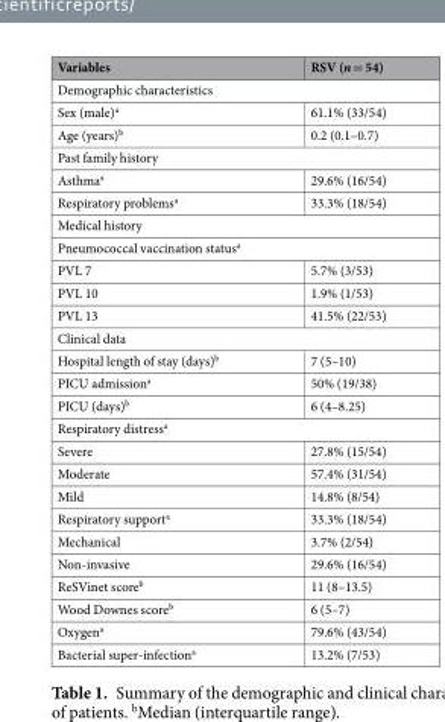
<table><thead><tr><td>Variables</td><td>RSV (n = 54)</td></tr></thead><tbody><tr><td colspan="2">Demographic characteristics</td></tr><tr><td>Sex (male)<sup>a</sup></td><td>61.1% (33/54)</td></tr><tr><td>Age (years)<sup>b</sup></td><td>0.2 (0.1–0.7)</td></tr><tr><td colspan="2">Past family history</td></tr><tr><td>Asthma<sup>a</sup></td><td>29.6% (16/54)</td></tr><tr><td>Respiratory problems<sup>a</sup></td><td>33.3% (18/54)</td></tr><tr><td colspan="2">Medical history</td></tr><tr><td colspan="2">Pneumococcal vaccination status<sup>a</sup></td></tr><tr><td>PVL 7</td><td>5.7% (3/53)</td></tr><tr><td>PVL 10</td><td>1.9% (1/53)</td></tr><tr><td>PVL 13</td><td>41.5% (22/53)</td></tr><tr><td colspan="2">Clinical data</td></tr><tr><td>Hospital length of stay (days)<sup>b</sup></td><td>7 (5–10)</td></tr><tr><td>PICU admission<sup>a</sup></td><td>50% (19/38)</td></tr><tr><td>PICU (days)<sup>b</sup></td><td>6 (4–8.25)</td></tr><tr><td colspan="2">Respiratory distress<sup>a</sup></td></tr><tr><td>Severe</td><td>27.8% (15/54)</td></tr><tr><td>Moderate</td><td>57.4% (31/54)</td></tr><tr><td>Mild</td><td>14.8% (8/54)</td></tr><tr><td>Respiratory support<sup>a</sup></td><td>33.3% (18/54)</td></tr><tr><td>Mechanical</td><td>3.7% (2/54)</td></tr><tr><td>Non-invasive</td><td>29.6% (16/54)</td></tr><tr><td>ReSVinet score<sup>b</sup></td><td>11 (8–13.5)</td></tr><tr><td>Wood Downes score<sup>b</sup></td><td>6 (5–7)</td></tr><tr><td>Oxygen<sup>a</sup></td><td>79.6% (43/54)</td></tr><tr><td>Bacterial super-infection<sup>a</sup></td><td>13.2% (7/53)</td></tr></tbody></table>